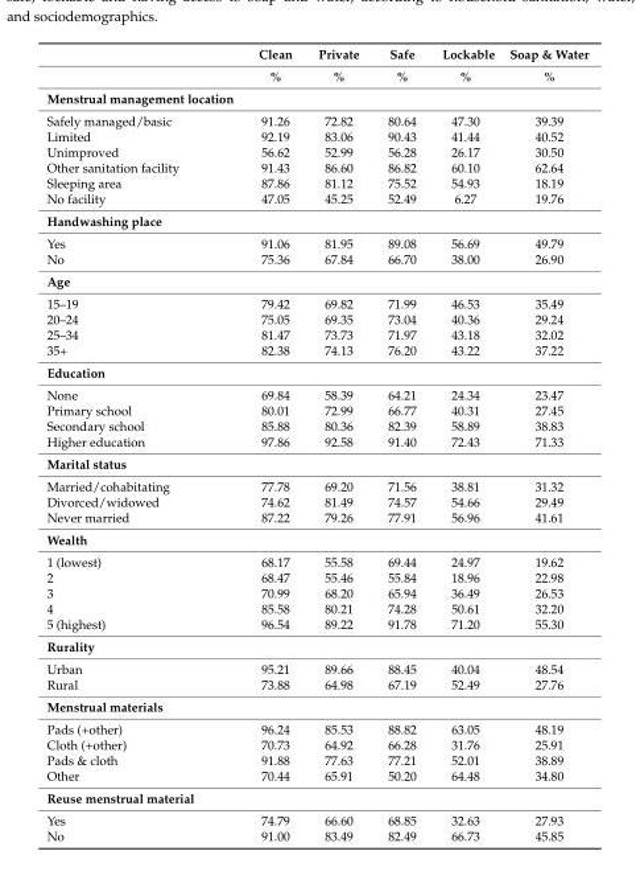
<table><thead><tr><td rowspan="2"></td><td rowspan="2">Clean %</td><td rowspan="2">Private %</td><td rowspan="2">Safe %</td><td rowspan="2">Lockable %</td><td rowspan="2">Soap &amp; Water %</td></tr><tr></tr></thead><tbody><tr><td colspan="6">Menstrual management location</td></tr><tr><td>Safely managed/basic</td><td>91.26</td><td>72.82</td><td>80.64</td><td>47.30</td><td>39.39</td></tr><tr><td>Limited</td><td>92.19</td><td>83.06</td><td>90.43</td><td>41.44</td><td>40.52</td></tr><tr><td>Unimproved</td><td>56.62</td><td>52.99</td><td>56.28</td><td>26.17</td><td>30.50</td></tr><tr><td>Other sanitation facility</td><td>91.43</td><td>86.60</td><td>86.82</td><td>60.10</td><td>62.64</td></tr><tr><td>Sleeping area</td><td>87.86</td><td>81.12</td><td>75.52</td><td>54.93</td><td>18.19</td></tr><tr><td>No facility</td><td>47.05</td><td>45.25</td><td>52.49</td><td>6.27</td><td>19.76</td></tr><tr><td colspan="6">Handwashing place</td></tr><tr><td>Yes</td><td>91.06</td><td>81.95</td><td>89.08</td><td>56.69</td><td>49.79</td></tr><tr><td>No</td><td>75.36</td><td>67.84</td><td>66.70</td><td>38.00</td><td>26.90</td></tr><tr><td colspan="6">Age</td></tr><tr><td>15–19</td><td>79.42</td><td>69.82</td><td>71.99</td><td>46.53</td><td>35.49</td></tr><tr><td>20–24</td><td>75.05</td><td>69.35</td><td>73.04</td><td>40.36</td><td>29.24</td></tr><tr><td>25–34</td><td>81.47</td><td>73.73</td><td>71.97</td><td>43.18</td><td>32.02</td></tr><tr><td>35+</td><td>82.38</td><td>74.13</td><td>76.20</td><td>43.22</td><td>37.22</td></tr><tr><td colspan="6">Education</td></tr><tr><td>None</td><td>69.84</td><td>58.39</td><td>64.21</td><td>24.34</td><td>23.47</td></tr><tr><td>Primary school</td><td>80.01</td><td>72.99</td><td>66.77</td><td>40.31</td><td>27.45</td></tr><tr><td>Secondary school</td><td>85.88</td><td>80.36</td><td>82.39</td><td>58.89</td><td>38.83</td></tr><tr><td>Higher education</td><td>97.86</td><td>92.58</td><td>91.40</td><td>72.43</td><td>71.33</td></tr><tr><td colspan="6">Marital status</td></tr><tr><td>Married/cohabitating</td><td>77.78</td><td>69.20</td><td>71.56</td><td>38.81</td><td>31.32</td></tr><tr><td>Divorced/widowed</td><td>74.62</td><td>81.49</td><td>74.57</td><td>54.66</td><td>29.49</td></tr><tr><td>Never married</td><td>87.22</td><td>79.26</td><td>77.91</td><td>56.96</td><td>41.61</td></tr><tr><td colspan="6">Wealth</td></tr><tr><td>1 (lowest)</td><td>68.17</td><td>55.58</td><td>69.44</td><td>24.97</td><td>19.62</td></tr><tr><td>2</td><td>68.47</td><td>55.46</td><td>55.84</td><td>18.96</td><td>22.98</td></tr><tr><td>3</td><td>70.99</td><td>68.20</td><td>65.94</td><td>36.49</td><td>26.53</td></tr><tr><td>4</td><td>85.58</td><td>80.21</td><td>74.28</td><td>50.61</td><td>32.20</td></tr><tr><td>5 (highest)</td><td>96.54</td><td>89.22</td><td>91.78</td><td>71.20</td><td>55.30</td></tr><tr><td colspan="6">Rurality</td></tr><tr><td>Urban</td><td>95.21</td><td>89.66</td><td>88.45</td><td>40.04</td><td>48.54</td></tr><tr><td>Rural</td><td>73.88</td><td>64.98</td><td>67.19</td><td>52.49</td><td>27.76</td></tr><tr><td colspan="6">Menstrual materials</td></tr><tr><td>Pads (+other)</td><td>96.24</td><td>85.53</td><td>88.82</td><td>63.05</td><td>48.19</td></tr><tr><td>Cloth (+other)</td><td>70.73</td><td>64.92</td><td>66.28</td><td>31.76</td><td>25.91</td></tr><tr><td>Pads &amp; cloth</td><td>91.88</td><td>77.63</td><td>77.21</td><td>52.01</td><td>38.89</td></tr><tr><td>Other</td><td>70.44</td><td>65.91</td><td>50.20</td><td>64.48</td><td>34.80</td></tr><tr><td colspan="6">Reuse menstrual material</td></tr><tr><td>Yes</td><td>74.79</td><td>66.60</td><td>68.85</td><td>32.63</td><td>27.93</td></tr><tr><td>No</td><td>91.00</td><td>83.49</td><td>82.49</td><td>66.73</td><td>45.85</td></tr></tbody></table>